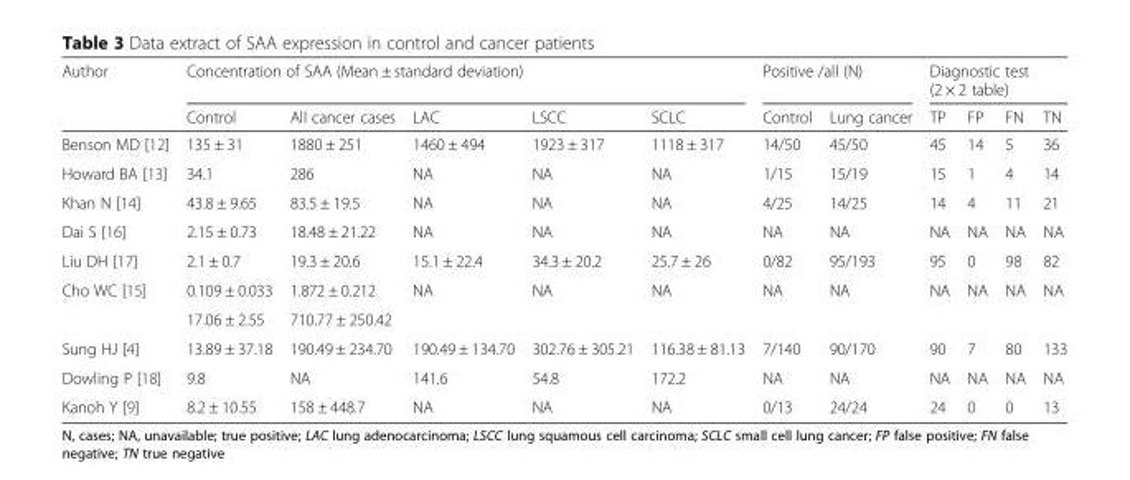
<table><thead><tr><td rowspan="2">Author</td><td colspan="5">Concentration of SAA (Mean ± standard deviation)</td><td colspan="2">Positive /all (N)</td><td colspan="4">Diagnostic test (2 × 2 table)</td></tr><tr><td>Control</td><td>All cancer cases</td><td>LAC</td><td>LSCC</td><td>SCLC</td><td>Control</td><td>Lung cancer</td><td>TP</td><td>FP</td><td>FN</td><td>TN</td></tr></thead><tbody><tr><td>Benson MD [12]</td><td>135 ± 31</td><td>1880 ± 251</td><td>1460 ± 494</td><td>1923 ± 317</td><td>1118 ± 317</td><td>14/50</td><td>45/50</td><td>45</td><td>14</td><td>5</td><td>36</td></tr><tr><td>Howard BA [13]</td><td>34.1</td><td>286</td><td>NA</td><td>NA</td><td>NA</td><td>1/15</td><td>15/19</td><td>15</td><td>1</td><td>4</td><td>14</td></tr><tr><td>Khan N [14]</td><td>43.8 ± 9.65</td><td>83.5 ± 19.5</td><td>NA</td><td>NA</td><td>NA</td><td>4/25</td><td>14/25</td><td>14</td><td>4</td><td>11</td><td>21</td></tr><tr><td>Dai S [16]</td><td>2.15 ± 0.73</td><td>18.48 ± 21.22</td><td>NA</td><td>NA</td><td>NA</td><td>NA</td><td>NA</td><td>NA</td><td>NA</td><td>NA</td><td>NA</td></tr><tr><td>Liu DH [17]</td><td>2.1 ± 0.7</td><td>19.3 ± 20.6</td><td>15.1 ± 22.4</td><td>34.3 ± 20.2</td><td>25.7 ± 26</td><td>0/82</td><td>95/193</td><td>95</td><td>0</td><td>98</td><td>82</td></tr><tr><td rowspan="2">Cho WC [15]</td><td>0.109 ± 0.033</td><td>1.872 ± 0.212</td><td>NA</td><td>NA</td><td>NA</td><td>NA</td><td>NA</td><td>NA</td><td>NA</td><td>NA</td><td>NA</td></tr><tr><td>17.06 ± 2.55</td><td>710.77 ± 250.42</td><td></td><td></td><td></td><td></td><td></td><td></td><td></td><td></td><td></td></tr><tr><td>Sung HJ [4]</td><td>13.89 ± 37.18</td><td>190.49 ± 234.70</td><td>190.49 ± 134.70</td><td>302.76 ± 305.21</td><td>116.38 ± 81.13</td><td>7/140</td><td>90/170</td><td>90</td><td>7</td><td>80</td><td>133</td></tr><tr><td>Dowling P [18]</td><td>9.8</td><td>NA</td><td>141.6</td><td>54.8</td><td>172.2</td><td>NA</td><td>NA</td><td>NA</td><td>NA</td><td>NA</td><td>NA</td></tr><tr><td>Kanoh Y [9]</td><td>8.2 ± 10.55</td><td>158 ± 448.7</td><td>NA</td><td>NA</td><td>NA</td><td>0/13</td><td>24/24</td><td>24</td><td>0</td><td>0</td><td>13</td></tr></tbody></table>